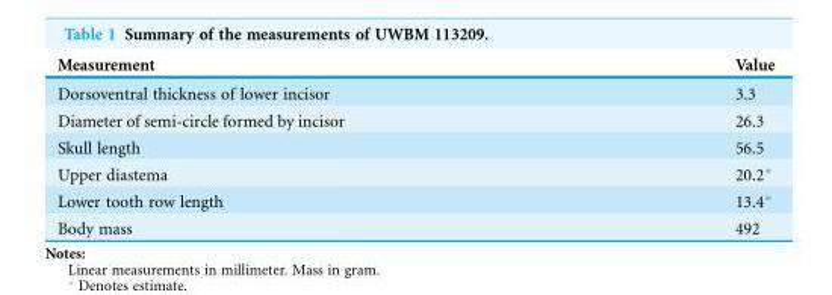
<table><thead><tr><td>Measurement</td><td>Value</td></tr></thead><tbody><tr><td>Dorsoventral thickness of lower incisor</td><td>3.3</td></tr><tr><td>Diameter of semi-circle formed by incisor</td><td>26.3</td></tr><tr><td>Skull length</td><td>56.5</td></tr><tr><td>Upper diastema</td><td>20.2*</td></tr><tr><td>Lower tooth row length</td><td>13.4*</td></tr><tr><td>Body mass</td><td>492</td></tr></tbody></table>